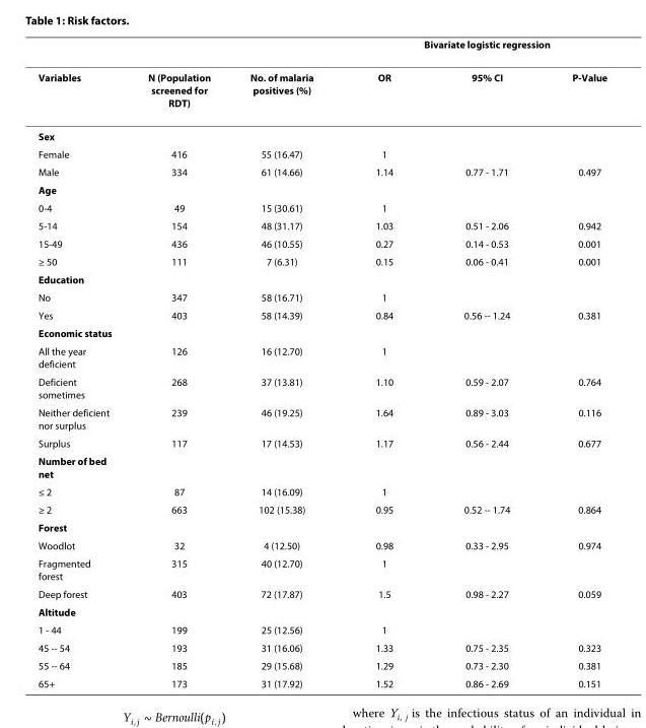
<table><thead><tr><td rowspan="2">Variables</td><td rowspan="2">N (Population screened for RDT)</td><td rowspan="2">No. of malaria positives (%)</td><td colspan="3">Bivariate logistic regression</td></tr><tr><td>OR</td><td>95% CI</td><td>P-Value</td></tr></thead><tbody><tr><td colspan="6">Sex</td></tr><tr><td>Female</td><td>416</td><td>55 (16.47)</td><td>1</td><td></td><td></td></tr><tr><td>Male</td><td>334</td><td>61 (14.66)</td><td>1.14</td><td>0.77 - 1.71</td><td>0.497</td></tr><tr><td colspan="6">Age</td></tr><tr><td>0-4</td><td>49</td><td>15 (30.61)</td><td>1</td><td></td><td></td></tr><tr><td>5-14</td><td>154</td><td>48 (31.17)</td><td>1.03</td><td>0.51 - 2.06</td><td>0.942</td></tr><tr><td>15-49</td><td>436</td><td>46 (10.55)</td><td>0.27</td><td>0.14 - 0.53</td><td>0.001</td></tr><tr><td>≥ 50</td><td>111</td><td>7 (6.31)</td><td>0.15</td><td>0.06 - 0.41</td><td>0.001</td></tr><tr><td colspan="6">Education</td></tr><tr><td>No</td><td>347</td><td>58 (16.71)</td><td>1</td><td></td><td></td></tr><tr><td>Yes</td><td>403</td><td>58 (14.39)</td><td>0.84</td><td>0.56 -- 1.24</td><td>0.381</td></tr><tr><td colspan="6">Economic status</td></tr><tr><td>All the year deficient</td><td>126</td><td>16 (12.70)</td><td>1</td><td></td><td></td></tr><tr><td>Deficient sometimes</td><td>268</td><td>37 (13.81)</td><td>1.10</td><td>0.59 - 2.07</td><td>0.764</td></tr><tr><td>Neither deficient nor surplus</td><td>239</td><td>46 (19.25)</td><td>1.64</td><td>0.89 - 3.03</td><td>0.116</td></tr><tr><td>Surplus</td><td>117</td><td>17 (14.53)</td><td>1.17</td><td>0.56 - 2.44</td><td>0.677</td></tr><tr><td colspan="6">Number of bed net</td></tr><tr><td>≤ 2</td><td>87</td><td>14 (16.09)</td><td>1</td><td></td><td></td></tr><tr><td>≥ 2</td><td>663</td><td>102 (15.38)</td><td>0.95</td><td>0.52 -- 1.74</td><td>0.864</td></tr><tr><td colspan="6">Forest</td></tr><tr><td>Woodlot</td><td>32</td><td>4 (12.50)</td><td>0.98</td><td>0.33 - 2.95</td><td>0.974</td></tr><tr><td>Fragmented forest</td><td>315</td><td>40 (12.70)</td><td>1</td><td></td><td></td></tr><tr><td>Deep forest</td><td>403</td><td>72 (17.87)</td><td>1.5</td><td>0.98 - 2.27</td><td>0.059</td></tr><tr><td colspan="6">Altitude</td></tr><tr><td>1 - 44</td><td>199</td><td>25 (12.56)</td><td>1</td><td></td><td></td></tr><tr><td>45 -- 54</td><td>193</td><td>31 (16.06)</td><td>1.33</td><td>0.75 - 2.35</td><td>0.323</td></tr><tr><td>55 -- 64</td><td>185</td><td>29 (15.68)</td><td>1.29</td><td>0.73 - 2.30</td><td>0.381</td></tr><tr><td>65+</td><td>173</td><td>31 (17.92)</td><td>1.52</td><td>0.86 - 2.69</td><td>0.151</td></tr></tbody></table>